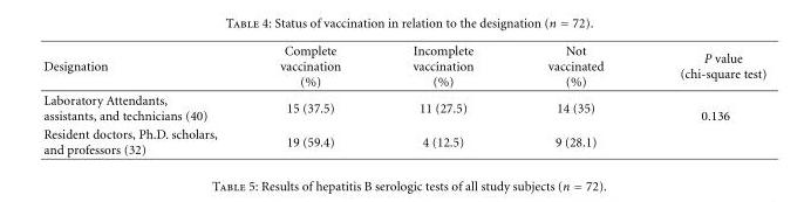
<table><thead><tr><td>Designation</td><td>Complete vaccination (%)</td><td>Incomplete vaccination (%)</td><td>Not vaccinated (%)</td><td>P value (chi-square test)</td></tr></thead><tbody><tr><td>Laboratory Attendants, assistants, and technicians (40)</td><td>15 (37.5)</td><td>11 (27.5)</td><td>14 (35)</td><td rowspan="2">0.136</td></tr><tr><td>Resident doctors, Ph.D. scholars, and professors (32)</td><td>19 (59.4)</td><td>4 (12.5)</td><td>9 (28.1)</td></tr></tbody></table>